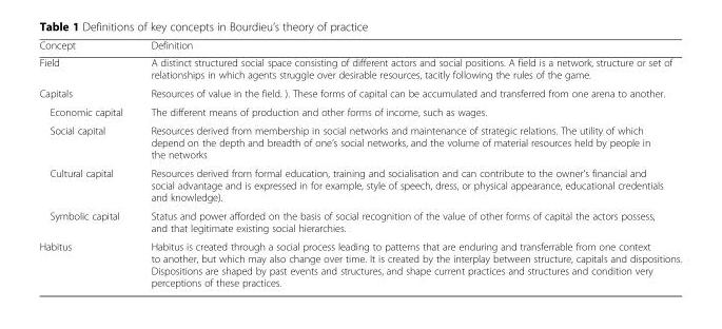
<table><thead><tr><td>Concept</td><td>Definition</td></tr></thead><tbody><tr><td>Field</td><td>A distinct structured social space consisting of different actors and social positions. A field is a network, structure or set of relationships in which agents struggle over desirable resources, tacitly following the rules of the game.</td></tr><tr><td>Capitals</td><td>Resources of value in the field. ). These forms of capital can be accumulated and transferred from one arena to another.</td></tr><tr><td>Economic capital</td><td>The different means of production and other forms of income, such as wages.</td></tr><tr><td>Social capital</td><td>Resources derived from membership in social networks and maintenance of strategic relations. The utility of which depend on the depth and breadth of one’s social networks, and the volume of material resources held by people in the networks</td></tr><tr><td>Cultural capital</td><td>Resources derived from formal education, training and socialisation and can contribute to the owner&#x27;s financial and social advantage and is expressed in for example, style of speech, dress, or physical appearance, educational credentials and knowledge).</td></tr><tr><td>Symbolic capital</td><td>Status and power afforded on the basis of social recognition of the value of other forms of capital the actors possess, and that legitimate existing social hierarchies.</td></tr><tr><td>Habitus</td><td>Habitus is created through a social process leading to patterns that are enduring and transferrable from one context to another, but which may also change over time. It is created by the interplay between structure, capitals and dispositions. Dispositions are shaped by past events and structures, and shape current practices and structures and condition very perceptions of these practices.</td></tr></tbody></table>